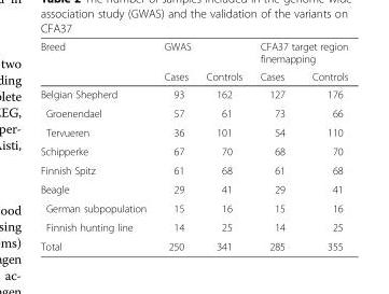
<table><thead><tr><td rowspan="2">Breed</td><td colspan="2">GWAS</td><td colspan="2">CFA37 target region finemapping</td></tr><tr><td>Cases</td><td>Controls</td><td>Cases</td><td>Controls</td></tr></thead><tbody><tr><td>Belgian Shepherd</td><td>93</td><td>162</td><td>127</td><td>176</td></tr><tr><td>Groenendael</td><td>57</td><td>61</td><td>73</td><td>66</td></tr><tr><td>Tervueren</td><td>36</td><td>101</td><td>54</td><td>110</td></tr><tr><td>Schipperke</td><td>67</td><td>70</td><td>68</td><td>70</td></tr><tr><td>Finnish Spitz</td><td>61</td><td>68</td><td>61</td><td>68</td></tr><tr><td>Beagle</td><td>29</td><td>41</td><td>29</td><td>41</td></tr><tr><td>German subpopulation</td><td>15</td><td>16</td><td>15</td><td>16</td></tr><tr><td>Finnish hunting line</td><td>14</td><td>25</td><td>14</td><td>25</td></tr><tr><td>Total</td><td>250</td><td>341</td><td>285</td><td>355</td></tr></tbody></table>